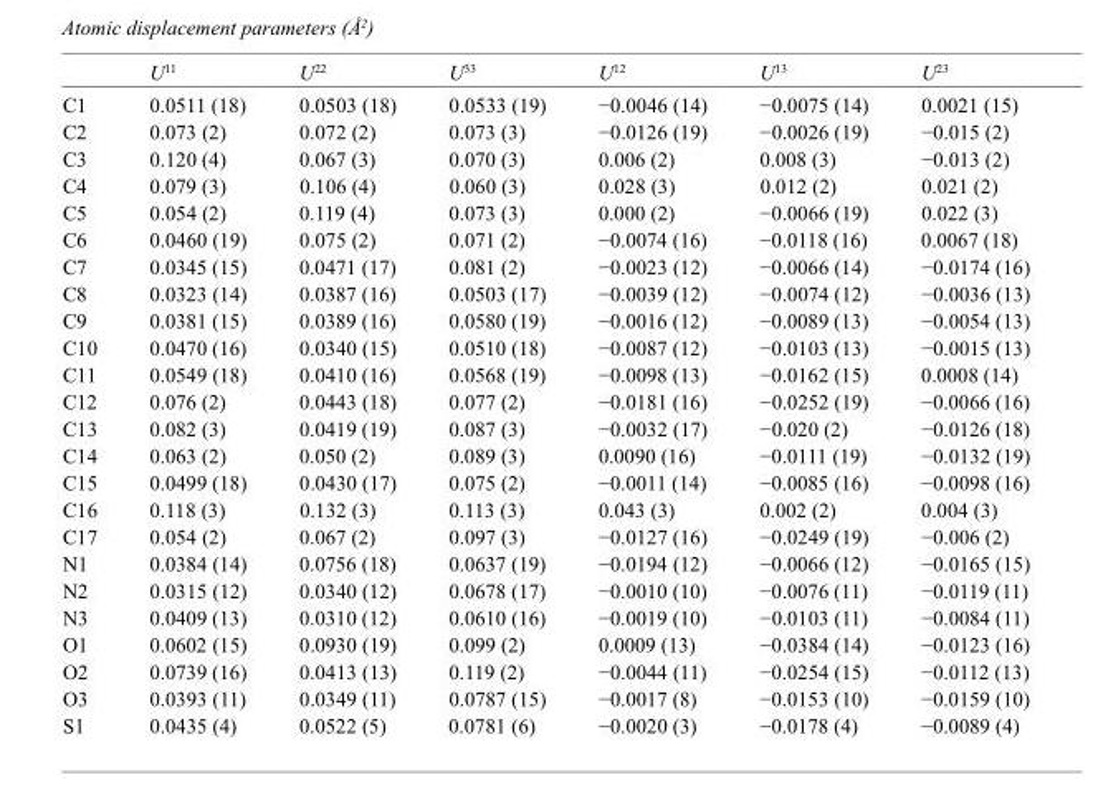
<table><thead><tr><td></td><td>U<sup>11</sup></td><td>U<sup>22</sup></td><td>U<sup>33</sup></td><td>U<sup>12</sup></td><td>U<sup>13</sup></td><td>U<sup>23</sup></td></tr></thead><tbody><tr><td>C1</td><td>0.0511 (18)</td><td>0.0503 (18)</td><td>0.0533 (19)</td><td>−0.0046 (14)</td><td>−0.0075 (14)</td><td>0.0021 (15)</td></tr><tr><td>C2</td><td>0.073 (2)</td><td>0.072 (2)</td><td>0.073 (3)</td><td>−0.0126 (19)</td><td>−0.0026 (19)</td><td>−0.015 (2)</td></tr><tr><td>C3</td><td>0.120 (4)</td><td>0.067 (3)</td><td>0.070 (3)</td><td>0.006 (2)</td><td>0.008 (3)</td><td>−0.013 (2)</td></tr><tr><td>C4</td><td>0.079 (3)</td><td>0.106 (4)</td><td>0.060 (3)</td><td>0.028 (3)</td><td>0.012 (2)</td><td>0.021 (2)</td></tr><tr><td>C5</td><td>0.054 (2)</td><td>0.119 (4)</td><td>0.073 (3)</td><td>0.000 (2)</td><td>−0.0066 (19)</td><td>0.022 (3)</td></tr><tr><td>C6</td><td>0.0460 (19)</td><td>0.075 (2)</td><td>0.071 (2)</td><td>−0.0074 (16)</td><td>−0.0118 (16)</td><td>0.0067 (18)</td></tr><tr><td>C7</td><td>0.0345 (15)</td><td>0.0471 (17)</td><td>0.081 (2)</td><td>−0.0023 (12)</td><td>−0.0066 (14)</td><td>−0.0174 (16)</td></tr><tr><td>C8</td><td>0.0323 (14)</td><td>0.0387 (16)</td><td>0.0503 (17)</td><td>−0.0039 (12)</td><td>−0.0074 (12)</td><td>−0.0036 (13)</td></tr><tr><td>C9</td><td>0.0381 (15)</td><td>0.0389 (16)</td><td>0.0580 (19)</td><td>−0.0016 (12)</td><td>−0.0089 (13)</td><td>−0.0054 (13)</td></tr><tr><td>C10</td><td>0.0470 (16)</td><td>0.0340 (15)</td><td>0.0510 (18)</td><td>−0.0087 (12)</td><td>−0.0103 (13)</td><td>−0.0015 (13)</td></tr><tr><td>C11</td><td>0.0549 (18)</td><td>0.0410 (16)</td><td>0.0568 (19)</td><td>−0.0098 (13)</td><td>−0.0162 (15)</td><td>0.0008 (14)</td></tr><tr><td>C12</td><td>0.076 (2)</td><td>0.0443 (18)</td><td>0.077 (2)</td><td>−0.0181 (16)</td><td>−0.0252 (19)</td><td>−0.0066 (16)</td></tr><tr><td>C13</td><td>0.082 (3)</td><td>0.0419 (19)</td><td>0.087 (3)</td><td>−0.0032 (17)</td><td>−0.020 (2)</td><td>−0.0126 (18)</td></tr><tr><td>C14</td><td>0.063 (2)</td><td>0.050 (2)</td><td>0.089 (3)</td><td>0.0090 (16)</td><td>−0.0111 (19)</td><td>−0.0132 (19)</td></tr><tr><td>C15</td><td>0.0499 (18)</td><td>0.0430 (17)</td><td>0.075 (2)</td><td>−0.0011 (14)</td><td>−0.0085 (16)</td><td>−0.0098 (16)</td></tr><tr><td>C16</td><td>0.118 (3)</td><td>0.132 (3)</td><td>0.113 (3)</td><td>0.043 (3)</td><td>0.002 (2)</td><td>0.004 (3)</td></tr><tr><td>C17</td><td>0.054 (2)</td><td>0.067 (2)</td><td>0.097 (3)</td><td>−0.0127 (16)</td><td>−0.0249 (19)</td><td>−0.006 (2)</td></tr><tr><td>N1</td><td>0.0384 (14)</td><td>0.0756 (18)</td><td>0.0637 (19)</td><td>−0.0194 (12)</td><td>−0.0066 (12)</td><td>−0.0165 (15)</td></tr><tr><td>N2</td><td>0.0315 (12)</td><td>0.0340 (12)</td><td>0.0678 (17)</td><td>−0.0010 (10)</td><td>−0.0076 (11)</td><td>−0.0119 (11)</td></tr><tr><td>N3</td><td>0.0409 (13)</td><td>0.0310 (12)</td><td>0.0610 (16)</td><td>−0.0019 (10)</td><td>−0.0103 (11)</td><td>−0.0084 (11)</td></tr><tr><td>O1</td><td>0.0602 (15)</td><td>0.0930 (19)</td><td>0.099 (2)</td><td>0.0009 (13)</td><td>−0.0384 (14)</td><td>−0.0123 (16)</td></tr><tr><td>O2</td><td>0.0739 (16)</td><td>0.0413 (13)</td><td>0.119 (2)</td><td>−0.0044 (11)</td><td>−0.0254 (15)</td><td>−0.0112 (13)</td></tr><tr><td>O3</td><td>0.0393 (11)</td><td>0.0349 (11)</td><td>0.0787 (15)</td><td>−0.0017 (8)</td><td>−0.0153 (10)</td><td>−0.0159 (10)</td></tr><tr><td>S1</td><td>0.0435 (4)</td><td>0.0522 (5)</td><td>0.0781 (6)</td><td>−0.0020 (3)</td><td>−0.0178 (4)</td><td>−0.0089 (4)</td></tr></tbody></table>